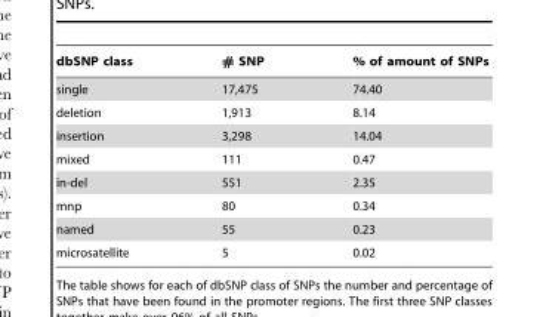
<table><thead><tr><td>dbSNP class</td><td># SNP</td><td>% of amount of SNPs</td></tr></thead><tbody><tr><td>single</td><td>17,475</td><td>74.40</td></tr><tr><td>deletion</td><td>1,913</td><td>8.14</td></tr><tr><td>insertion</td><td>3,298</td><td>14.04</td></tr><tr><td>mixed</td><td>111</td><td>0.47</td></tr><tr><td>in-del</td><td>551</td><td>2.35</td></tr><tr><td>mnp</td><td>80</td><td>0.34</td></tr><tr><td>named</td><td>55</td><td>0.23</td></tr><tr><td>microsatellite</td><td>5</td><td>0.02</td></tr></tbody></table>